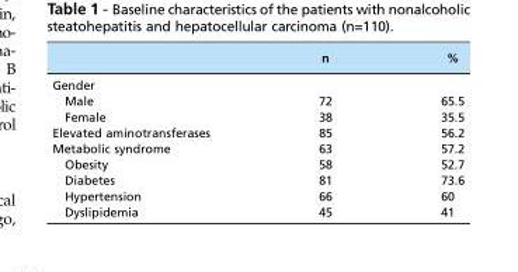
<table><thead><tr><td></td><td>n</td><td>%</td></tr></thead><tbody><tr><td colspan="3">Gender</td></tr><tr><td>Male</td><td>72</td><td>65.5</td></tr><tr><td>Female</td><td>38</td><td>35.5</td></tr><tr><td>Elevated aminotransferases</td><td>85</td><td>56.2</td></tr><tr><td>Metabolic syndrome</td><td>63</td><td>57.2</td></tr><tr><td>Obesity</td><td>58</td><td>52.7</td></tr><tr><td>Diabetes</td><td>81</td><td>73.6</td></tr><tr><td>Hypertension</td><td>66</td><td>60</td></tr><tr><td>Dyslipidemia</td><td>45</td><td>41</td></tr></tbody></table>